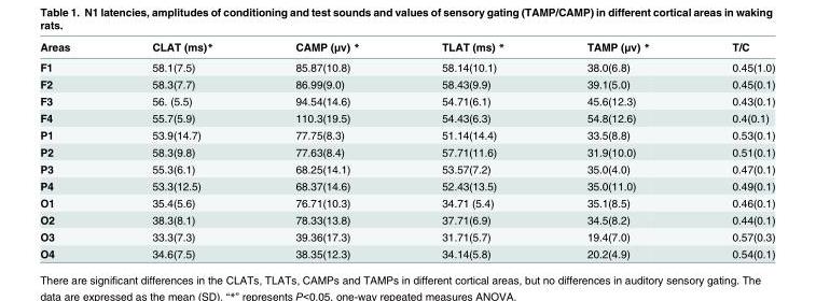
<table><thead><tr><td>Areas</td><td>CLAT (ms)*</td><td>CAMP (μv) *</td><td>TLAT (ms) *</td><td>TAMP (μv) *</td><td>T/C</td></tr></thead><tbody><tr><td>F1</td><td>58.1(7.5)</td><td>85.87(10.8)</td><td>58.14(10.1)</td><td>38.0(6.8)</td><td>0.45(1.0)</td></tr><tr><td>F2</td><td>58.3(7.7)</td><td>86.99(9.0)</td><td>58.43(9.9)</td><td>39.1(5.0)</td><td>0.45(0.1)</td></tr><tr><td>F3</td><td>56. (5.5)</td><td>94.54(14.6)</td><td>54.71(6.1)</td><td>45.6(12.3)</td><td>0.43(0.1)</td></tr><tr><td>F4</td><td>55.7(5.9)</td><td>110.3(19.5)</td><td>54.43(6.3)</td><td>54.8(12.6)</td><td>0.4(0.1)</td></tr><tr><td>P1</td><td>53.9(14.7)</td><td>77.75(8.3)</td><td>51.14(14.4)</td><td>33.5(8.8)</td><td>0.53(0.1)</td></tr><tr><td>P2</td><td>58.3(9.8)</td><td>77.63(8.4)</td><td>57.71(11.6)</td><td>31.9(10.0)</td><td>0.51(0.1)</td></tr><tr><td>P3</td><td>55.3(6.1)</td><td>68.25(14.1)</td><td>53.57(7.2)</td><td>35.0(4.0)</td><td>0.47(0.1)</td></tr><tr><td>P4</td><td>53.3(12.5)</td><td>68.37(14.6)</td><td>52.43(13.5)</td><td>35.0(11.0)</td><td>0.49(0.1)</td></tr><tr><td>O1</td><td>35.4(5.6)</td><td>76.71(10.3)</td><td>34.71 (5.4)</td><td>35.1(8.5)</td><td>0.46(0.1)</td></tr><tr><td>O2</td><td>38.3(8.1)</td><td>78.33(13.8)</td><td>37.71(6.9)</td><td>34.5(8.2)</td><td>0.44(0.1)</td></tr><tr><td>O3</td><td>33.3(7.3)</td><td>39.36(17.3)</td><td>31.71(5.7)</td><td>19.4(7.0)</td><td>0.57(0.3)</td></tr><tr><td>O4</td><td>34.6(7.5)</td><td>38.35(12.3)</td><td>34.14(5.8)</td><td>20.2(4.9)</td><td>0.54(0.1)</td></tr></tbody></table>